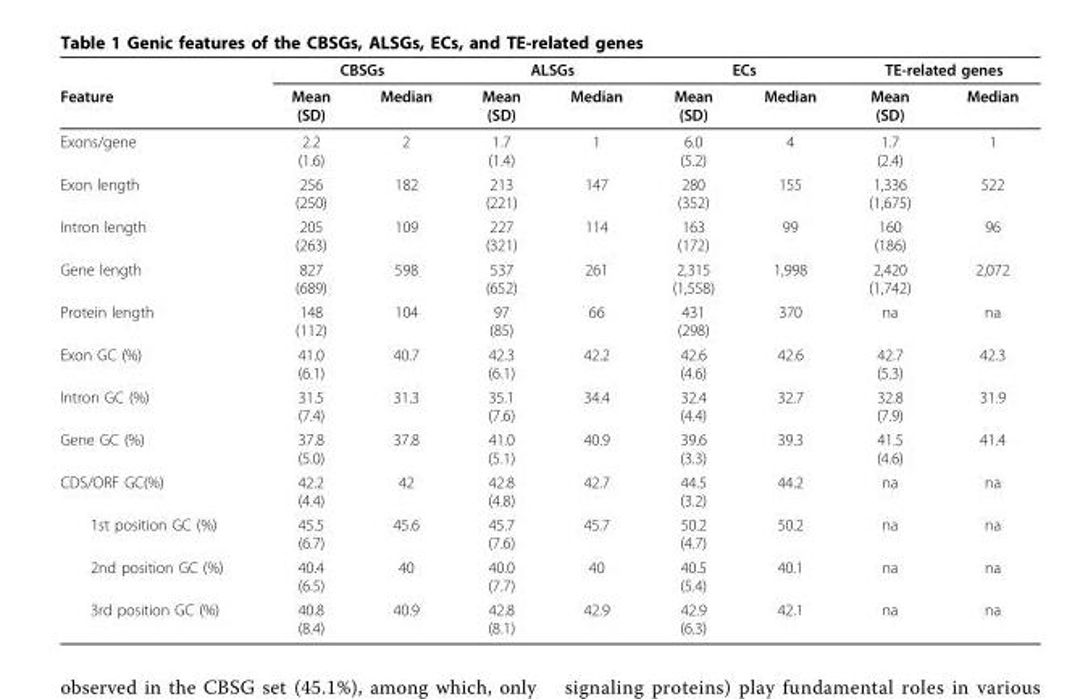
<table><thead><tr><td rowspan="2">Feature</td><td colspan="2">CBSGs</td><td colspan="2">ALSGs</td><td colspan="2">ECs</td><td colspan="2">TE-related genes</td></tr><tr><td>Mean (SD)</td><td>Median</td><td>Mean (SD)</td><td>Median</td><td>Mean (SD)</td><td>Median</td><td>Mean (SD)</td><td>Median</td></tr></thead><tbody><tr><td>Exons/gene</td><td>2.2 (1.6)</td><td>2</td><td>1.7 (1.4)</td><td>1</td><td>6.0 (5.2)</td><td>4</td><td>1.7 (2.4)</td><td>1</td></tr><tr><td>Exon length</td><td>256 (250)</td><td>182</td><td>213 (221)</td><td>147</td><td>280 (352)</td><td>155</td><td>1,336 (1,675)</td><td>522</td></tr><tr><td>Intron length</td><td>205 (263)</td><td>109</td><td>227 (321)</td><td>114</td><td>163 (172)</td><td>99</td><td>160 (186)</td><td>96</td></tr><tr><td>Gene length</td><td>827 (689)</td><td>598</td><td>537 (652)</td><td>261</td><td>2,315 (1,558)</td><td>1,998</td><td>2,420 (1,742)</td><td>2,072</td></tr><tr><td>Protein length</td><td>148 (112)</td><td>104</td><td>97 (85)</td><td>66</td><td>431 (298)</td><td>370</td><td>na</td><td>na</td></tr><tr><td>Exon GC (%)</td><td>41.0 (6.1)</td><td>40.7</td><td>42.3 (6.1)</td><td>42.2</td><td>42.6 (4.6)</td><td>42.6</td><td>42.7 (5.3)</td><td>42.3</td></tr><tr><td>Intron GC (%)</td><td>31.5 (7.4)</td><td>31.3</td><td>35.1 (7.6)</td><td>34.4</td><td>32.4 (4.4)</td><td>32.7</td><td>32.8 (7.9)</td><td>31.9</td></tr><tr><td>Gene GC (%)</td><td>37.8 (5.0)</td><td>37.8</td><td>41.0 (5.1)</td><td>40.9</td><td>39.6 (3.3)</td><td>39.3</td><td>41.5 (4.6)</td><td>41.4</td></tr><tr><td>CDS/ORF GC(%)</td><td>42.2 (4.4)</td><td>42</td><td>42.8 (4.8)</td><td>42.7</td><td>44.5 (3.2)</td><td>44.2</td><td>na</td><td>na</td></tr><tr><td>1st position GC (%)</td><td>45.5 (6.7)</td><td>45.6</td><td>45.7 (7.6)</td><td>45.7</td><td>50.2 (4.7)</td><td>50.2</td><td>na</td><td>na</td></tr><tr><td>2nd position GC (%)</td><td>40.4 (6.5)</td><td>40</td><td>40.0 (7.7)</td><td>40</td><td>40.5 (5.4)</td><td>40.1</td><td>na</td><td>na</td></tr><tr><td>3rd position GC (%)</td><td>40.8 (8.4)</td><td>40.9</td><td>42.8 (8.1)</td><td>42.9</td><td>42.9 (6.3)</td><td>42.1</td><td>na</td><td>na</td></tr></tbody></table>